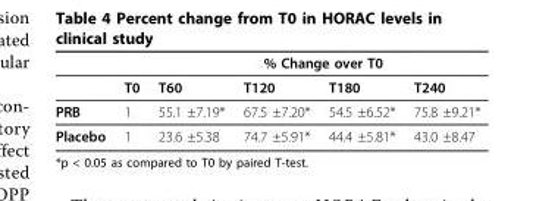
<table><thead><tr><td rowspan="2"></td><td rowspan="2">T0</td><td colspan="4">% Change over T0</td></tr><tr><td>T60</td><td>T120</td><td>T180</td><td>T240</td></tr></thead><tbody><tr><td>PRB</td><td>1</td><td>55.1 ±7.19*</td><td>67.5 ±7.20*</td><td>54.5 ±6.52*</td><td>75.8 ±9.21*</td></tr><tr><td>Placebo</td><td>1</td><td>23.6 ±5.38</td><td>74.7 ±5.91*</td><td>44.4 ±5.81*</td><td>43.0 ±8.47</td></tr></tbody></table>